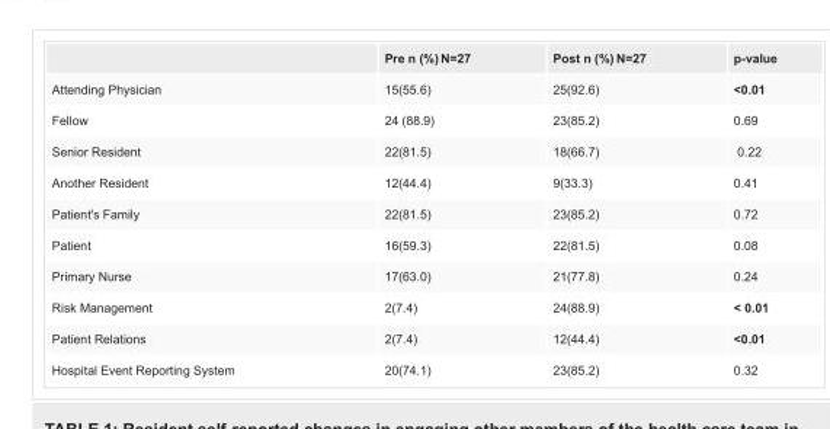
<table><thead><tr><td></td><td>Pre n (%) N=27</td><td>Post n (%) N=27</td><td>p-value</td></tr></thead><tbody><tr><td>Attending Physician</td><td>15(55.6)</td><td>25(92.6)</td><td>&lt;0.01</td></tr><tr><td>Fellow</td><td>24 (88.9)</td><td>23(85.2)</td><td>0.69</td></tr><tr><td>Senior Resident</td><td>22(81.5)</td><td>18(66.7)</td><td>0.22</td></tr><tr><td>Another Resident</td><td>12(44.4)</td><td>9(33.3)</td><td>0.41</td></tr><tr><td>Patient&#x27;s Family</td><td>22(81.5)</td><td>23(85.2)</td><td>0.72</td></tr><tr><td>Patient</td><td>16(59.3)</td><td>22(81.5)</td><td>0.08</td></tr><tr><td>Primary Nurse</td><td>17(63.0)</td><td>21(77.8)</td><td>0.24</td></tr><tr><td>Risk Management</td><td>2(7.4)</td><td>24(88.9)</td><td>&lt; 0.01</td></tr><tr><td>Patient Relations</td><td>2(7.4)</td><td>12(44.4)</td><td>&lt;0.01</td></tr><tr><td>Hospital Event Reporting System</td><td>20(74.1)</td><td>23(85.2)</td><td>0.32</td></tr></tbody></table>